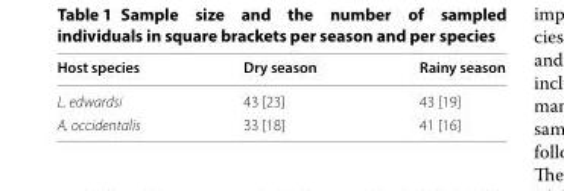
<table><thead><tr><td>Host species</td><td>Dry season</td><td>Rainy season</td></tr></thead><tbody><tr><td>L. edwardsi</td><td>43 [23]</td><td>43 [19]</td></tr><tr><td>A. occidentalis</td><td>33 [18]</td><td>41 [16]</td></tr></tbody></table>